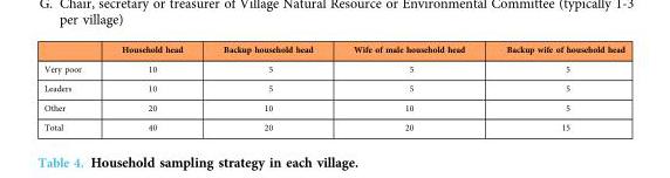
<table><thead><tr><td></td><td>Household head</td><td>Backup household head</td><td>Wife of male household head</td><td>Backup wife of household head</td></tr></thead><tbody><tr><td>Very poor</td><td>10</td><td>5</td><td>5</td><td>5</td></tr><tr><td>Leaders</td><td>10</td><td>5</td><td>5</td><td>5</td></tr><tr><td>Other</td><td>20</td><td>10</td><td>10</td><td>5</td></tr><tr><td>Total</td><td>40</td><td>20</td><td>20</td><td>15</td></tr></tbody></table>